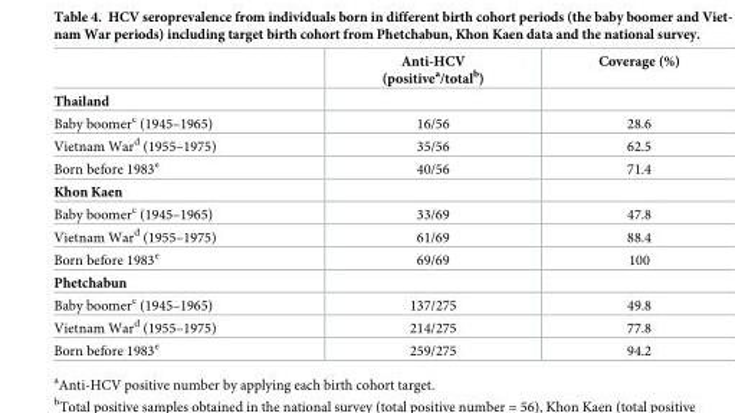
<table><thead><tr><td></td><td>Anti-HCV (positive<sup>a</sup>/total<sup>b</sup>)</td><td>Coverage (%)</td></tr></thead><tbody><tr><td colspan="3">Thailand</td></tr><tr><td>Baby boomer<sup>c</sup> (1945–1965)</td><td>16/56</td><td>28.6</td></tr><tr><td>Vietnam War<sup>d</sup> (1955–1975)</td><td>35/56</td><td>62.5</td></tr><tr><td>Born before 1983<sup>e</sup></td><td>40/56</td><td>71.4</td></tr><tr><td colspan="3">Khon Kaen</td></tr><tr><td>Baby boomer<sup>c</sup> (1945–1965)</td><td>33/69</td><td>47.8</td></tr><tr><td>Vietnam War<sup>d</sup> (1955–1975)</td><td>61/69</td><td>88.4</td></tr><tr><td>Born before 1983<sup>e</sup></td><td>69/69</td><td>100</td></tr><tr><td colspan="3">Phetchabun</td></tr><tr><td>Baby boomer<sup>c</sup> (1945–1965)</td><td>137/275</td><td>49.8</td></tr><tr><td>Vietnam War<sup>d</sup> (1955–1975)</td><td>214/275</td><td>77.8</td></tr><tr><td>Born before 1983<sup>e</sup></td><td>259/275</td><td>94.2</td></tr></tbody></table>